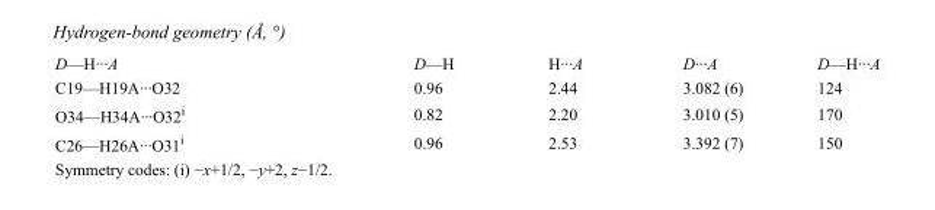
<table><tbody><tr><td>D—H···A</td><td>D—H</td><td>H···A</td><td>D···A</td><td>D—H···A</td></tr><tr><td>C19—H19A···O32</td><td>0.96</td><td>2.44</td><td>3.082 (6)</td><td>124</td></tr><tr><td>O34—H34A···O32<sup>i</sup></td><td>0.82</td><td>2.20</td><td>3.010 (5)</td><td>170</td></tr><tr><td>C26—H26A···O31<sup>i</sup></td><td>0.96</td><td>2.53</td><td>3.392 (7)</td><td>150</td></tr></tbody></table>